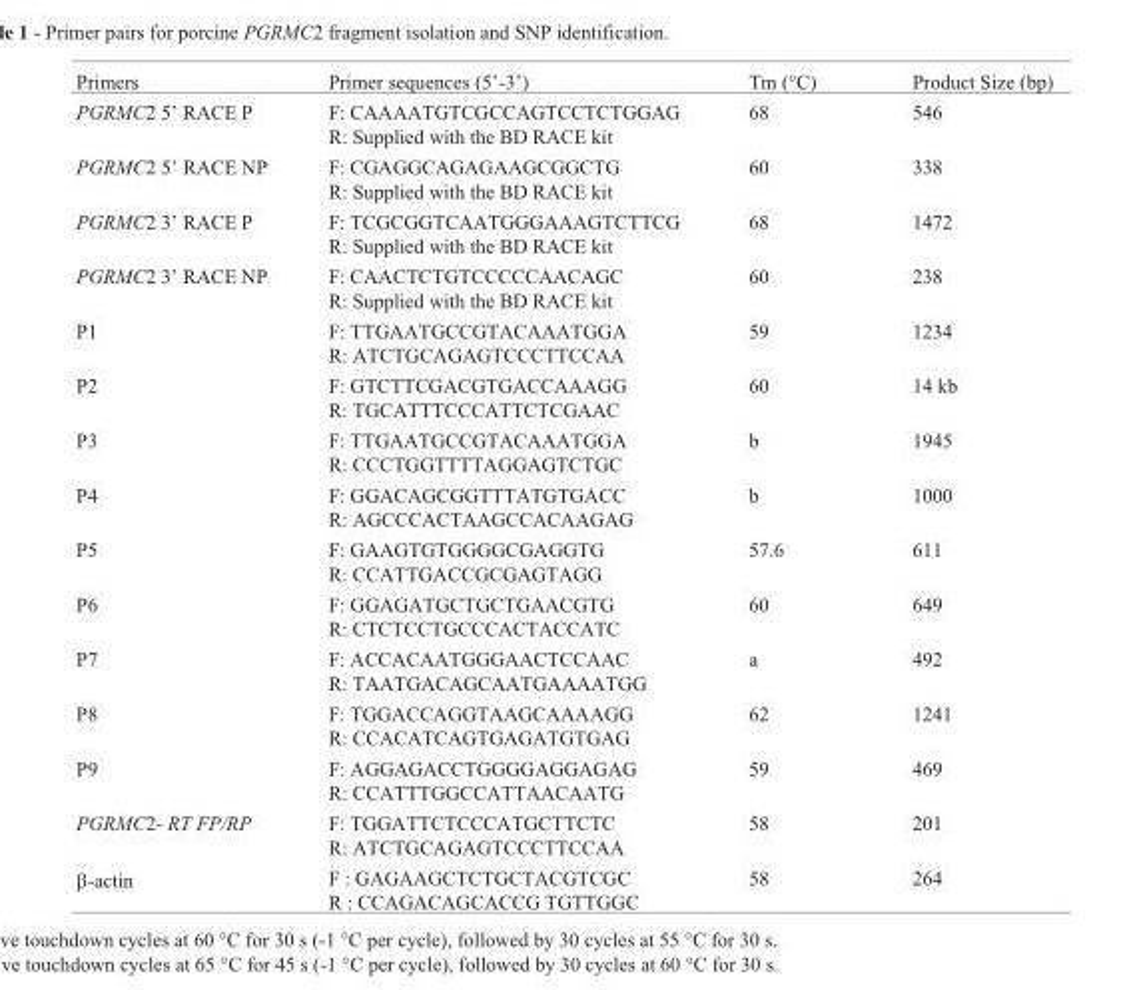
<table><thead><tr><td>Primers</td><td>Primer sequences (5’-3’)</td><td>Tm (°C)</td><td>Product Size (bp)</td></tr></thead><tbody><tr><td>PGRMC2 5’ RACE P</td><td>F: CAAAATGTCGCCAGTCCTCTGGAG R: Supplied with the BD RACE kit</td><td>68</td><td>546</td></tr><tr><td>PGRMC2 5’ RACE NP</td><td>F: CGAGGCAGAGAAGCGGCTG R: Supplied with the BD RACE kit</td><td>60</td><td>338</td></tr><tr><td>PGRMC2 3’ RACE P</td><td>F: TCGCGGTCAATGGGAAAGTCTTCG R: Supplied with the BD RACE kit</td><td>68</td><td>1472</td></tr><tr><td>PGRMC2 3’ RACE NP</td><td>F: CAACTCTGTCCCCCAACAGC R: Supplied with the BD RACE kit</td><td>60</td><td>238</td></tr><tr><td>P1</td><td>F: TTGAATGCCGTACAAATGGA R: ATCTGCAGAGTCCCTTCCAA</td><td>59</td><td>1234</td></tr><tr><td>P2</td><td>F: GTCTTCGACGTGACCAAAGG R: TGCATTTCCCATTCTCGAAC</td><td>60</td><td>14 kb</td></tr><tr><td>P3</td><td>F: TTGAATGCCGTACAAATGGA R: CCCTGGTTTTAGGAGTCTGC</td><td>b</td><td>1945</td></tr><tr><td>P4</td><td>F: GGACAGCGGTTTATGTGACC R: AGCCCACTAAGCCACAAGAG</td><td>b</td><td>1000</td></tr><tr><td>P5</td><td>F: GAAGTGTGGGGCGAGGTG R: CCATTGACCGCGAGTAGG</td><td>57.6</td><td>611</td></tr><tr><td>P6</td><td>F: GGAGATGCTGCTGAACGTG R: CTCTCCTGCCCACTACCATC</td><td>60</td><td>649</td></tr><tr><td>P7</td><td>F: ACCACAATGGGAACTCCAAC R: TAATGACAGCAATGAAAATGG</td><td>a</td><td>492</td></tr><tr><td>P8</td><td>F: TGGACCAGGTAAGCAAAAGG R: CCACATCAGTGAGATGTGAG</td><td>62</td><td>1241</td></tr><tr><td>P9</td><td>F: AGGAGACCTGGGGAGGAGAG R: CCATTTGGCCATTAACAATG</td><td>59</td><td>469</td></tr><tr><td>PGRMC2- RT FP/RP</td><td>F: TGGATTCTCCCATGCTTCTC R: ATCTGCAGAGTCCCTTCCAA</td><td>58</td><td>201</td></tr><tr><td>β-actin</td><td>F : GAGAAGCTCTGCTACGTCGC R : CCAGACAGCACCG TGTTGGC</td><td>58</td><td>264</td></tr></tbody></table>